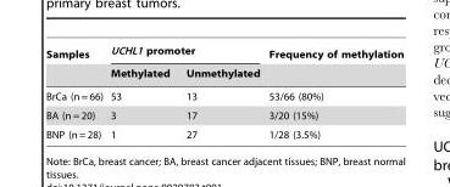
<table><thead><tr><td rowspan="2">Samples</td><td colspan="2">UCHL1 promoter</td><td rowspan="2">Frequency of methylation</td></tr><tr><td>Methylated</td><td>Unmethylated</td></tr></thead><tbody><tr><td>BrCa (n = 66)</td><td>53</td><td>13</td><td>53/66 (80%)</td></tr><tr><td>BA (n = 20)</td><td>3</td><td>17</td><td>3/20 (15%)</td></tr><tr><td>BNP (n = 28)</td><td>1</td><td>27</td><td>1/28 (3.5%)</td></tr></tbody></table>